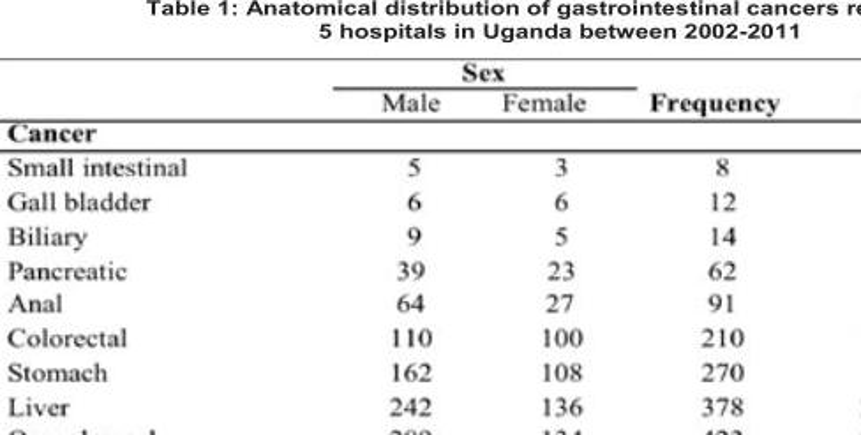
<table><thead><tr><td rowspan="2"></td><td colspan="2">Sex</td><td rowspan="2">Frequency</td><td rowspan="2">(%)</td></tr><tr><td>Male</td><td>Female</td></tr></thead><tbody><tr><td colspan="5">Cancer</td></tr><tr><td>Small intestinal</td><td>5</td><td>3</td><td>8</td><td>0.5</td></tr><tr><td>Gall bladder</td><td>6</td><td>6</td><td>12</td><td>0.8</td></tr><tr><td>Biliary</td><td>9</td><td>5</td><td>14</td><td>1.0</td></tr><tr><td>Pancreatic</td><td>39</td><td>23</td><td>62</td><td>4.2</td></tr><tr><td>Anal</td><td>64</td><td>27</td><td>91</td><td>6.2</td></tr><tr><td>Colorectal</td><td>110</td><td>100</td><td>210</td><td>14.3</td></tr><tr><td>Stomach</td><td>162</td><td>108</td><td>270</td><td>18.4</td></tr><tr><td>Liver</td><td>242</td><td>136</td><td>378</td><td>25.8</td></tr><tr><td>Oesophageal</td><td>289</td><td>134</td><td>423</td><td>28.8</td></tr><tr><td>Total</td><td>926</td><td>542</td><td>1468</td><td>100</td></tr></tbody></table>